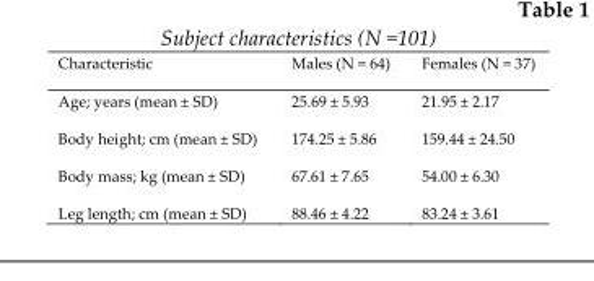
<table><thead><tr><td>Characteristic</td><td>Males (N = 64)</td><td>Females (N = 37)</td></tr></thead><tbody><tr><td>Age; years (mean ± SD)</td><td>25.69 ± 5.93</td><td>21.95 ± 2.17</td></tr><tr><td>Body height; cm (mean ± SD)</td><td>174.25 ± 5.86</td><td>159.44 ± 24.50</td></tr><tr><td>Body mass; kg (mean ± SD)</td><td>67.61 ± 7.65</td><td>54.00 ± 6.30</td></tr><tr><td>Leg length; cm (mean ± SD)</td><td>88.46 ± 4.22</td><td>83.24 ± 3.61</td></tr></tbody></table>